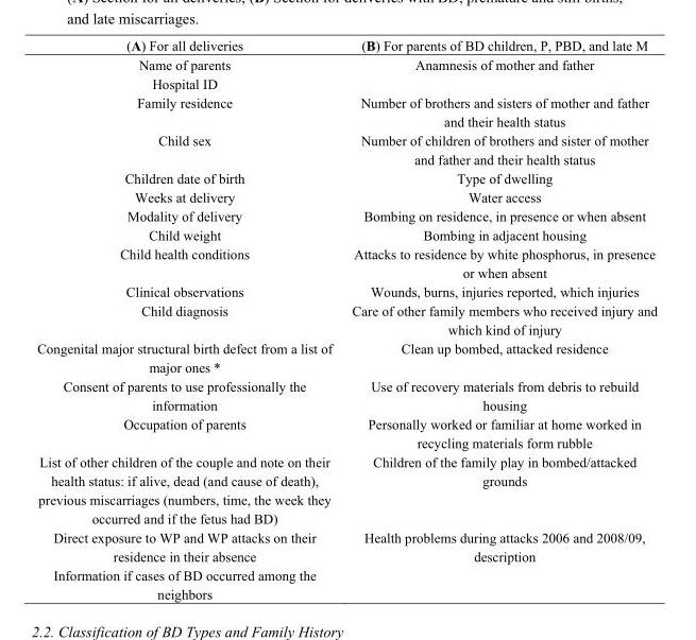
<table><tbody><tr><td>(A) For all deliveries</td><td>(B) For parents of BD children, P, PBD, and late M</td></tr><tr><td>Name of parents Hospital ID</td><td>Anamnesis of mother and father</td></tr><tr><td>Family residence</td><td>Number of brothers and sisters of mother and father and their health status</td></tr><tr><td>Child sex</td><td>Number of children of brothers and sister of mother and father and their health status</td></tr><tr><td>Children date of birth</td><td>Type of dwelling</td></tr><tr><td>Weeks at delivery</td><td>Water access</td></tr><tr><td>Modality of delivery</td><td>Bombing on residence, in presence or when absent</td></tr><tr><td>Child weight</td><td>Bombing in adjacent housing</td></tr><tr><td>Child health conditions</td><td>Attacks to residence by white phosphorus, in presence or when absent</td></tr><tr><td>Clinical observations</td><td>Wounds, burns, injuries reported, which injuries</td></tr><tr><td>Child diagnosis</td><td>Care of other family members who received injury and which kind of injury</td></tr><tr><td>Congenital major structural birth defect from a list of major ones *</td><td>Clean up bombed, attacked residence</td></tr><tr><td>Consent of parents to use professionally the information</td><td>Use of recovery materials from debris to rebuild housing</td></tr><tr><td>Occupation of parents</td><td>Personally worked or familiar at home worked in recycling materials form rubble</td></tr><tr><td>List of other children of the couple and note on their health status: if alive, dead (and cause of death), previous miscarriages (numbers, time, the week they occurred and if the fetus had BD)</td><td>Children of the family play in bombed/attacked grounds</td></tr><tr><td>Direct exposure to WP and WP attacks on their residence in their absence</td><td>Health problems during attacks 2006 and 2008/09, description</td></tr><tr><td>Information if cases of BD occurred among the neighbors</td><td></td></tr></tbody></table>